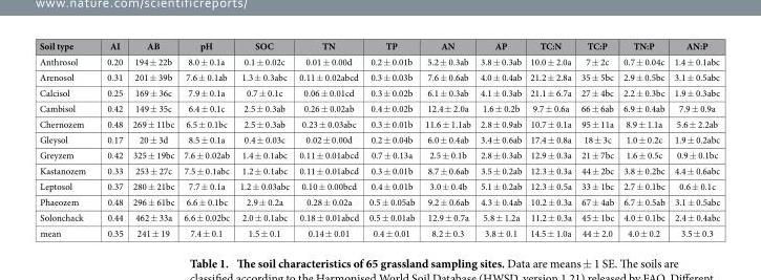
<table><thead><tr><td>Soil type</td><td>AI</td><td>AB</td><td>pH</td><td>SOC</td><td>TN</td><td>TP</td><td>AN</td><td>AP</td><td>TC:N</td><td>TC:P</td><td>TN:P</td><td>AN:P</td></tr></thead><tbody><tr><td>Anthrosol</td><td>0.20</td><td>194 ± 22b</td><td>8.0 ± 0.1a</td><td>0.1 ± 0.02c</td><td>0.01 ± 0.00d</td><td>0.2 ± 0.01b</td><td>5.2 ± 0.3ab</td><td>3.8 ± 0.3ab</td><td>10.0 ± 2.0a</td><td>7 ± 2c</td><td>0.7 ± 0.04c</td><td>1.4 ± 0.1abc</td></tr><tr><td>Arenosol</td><td>0.31</td><td>201 ± 39b</td><td>7.6 ± 0.1ab</td><td>1.3 ± 0.3abc</td><td>0.11 ± 0.02abcd</td><td>0.3 ± 0.03b</td><td>7.6 ± 0.6ab</td><td>4.0 ± 0.4ab</td><td>21.2 ± 2.8a</td><td>35 ± 5bc</td><td>2.9 ± 0.5bc</td><td>3.1 ± 0.5abc</td></tr><tr><td>Calcisol</td><td>0.25</td><td>169 ± 36c</td><td>7.9 ± 0.1a</td><td>0.7 ± 0.1c</td><td>0.06 ± 0.01cd</td><td>0.3 ± 0.02b</td><td>6.1 ± 0.3ab</td><td>4.1 ± 0.3ab</td><td>21.1 ± 6.7a</td><td>27 ± 4bc</td><td>2.2 ± 0.3bc</td><td>1.9 ± 0.3abc</td></tr><tr><td>Cambisol</td><td>0.42</td><td>149 ± 35c</td><td>6.4 ± 0.1c</td><td>2.5 ± 0.3ab</td><td>0.26 ± 0.02ab</td><td>0.4 ± 0.02b</td><td>12.4 ± 2.0a</td><td>1.6 ± 0.2b</td><td>9.7 ± 0.6a</td><td>66 ± 6ab</td><td>6.9 ± 0.4ab</td><td>7.9 ± 0.9a</td></tr><tr><td>Chernozem</td><td>0.48</td><td>269 ± 11bc</td><td>6.5 ± 0.1bc</td><td>2.5 ± 0.3ab</td><td>0.23 ± 0.03abc</td><td>0.3 ± 0.01b</td><td>11.6 ± 1.1ab</td><td>2.8 ± 0.9ab</td><td>10.7 ± 0.1a</td><td>95 ± 11a</td><td>8.9 ± 1.1a</td><td>5.6 ± 2.2ab</td></tr><tr><td>Gleysol</td><td>0.17</td><td>20 ± 3d</td><td>8.5 ± 0.1a</td><td>0.4 ± 0.03c</td><td>0.02 ± 0.00d</td><td>0.2 ± 0.04b</td><td>6.0 ± 0.4ab</td><td>3.4 ± 0.6ab</td><td>17.4 ± 0.8a</td><td>18 ± 3c</td><td>1.0 ± 0.2c</td><td>1.9 ± 0.2abc</td></tr><tr><td>Greyzem</td><td>0.42</td><td>325 ± 19bc</td><td>7.6 ± 0.02ab</td><td>1.4 ± 0.1abc</td><td>0.11 ± 0.01abcd</td><td>0.7 ± 0.13a</td><td>2.5 ± 0.1b</td><td>2.8 ± 0.3ab</td><td>12.9 ± 0.3a</td><td>21 ± 7bc</td><td>1.6 ± 0.5c</td><td>0.9 ± 0.1bc</td></tr><tr><td>Kastanozem</td><td>0.33</td><td>253 ± 27c</td><td>7.5 ± 0.1abc</td><td>1.2 ± 0.1abc</td><td>0.11 ± 0.01abcd</td><td>0.3 ± 0.01b</td><td>8.7 ± 0.6ab</td><td>3.5 ± 0.2ab</td><td>12.3 ± 0.3a</td><td>44 ± 2bc</td><td>3.8 ± 0.2bc</td><td>4.4 ± 0.6abc</td></tr><tr><td>Leptosol</td><td>0.37</td><td>280 ± 21bc</td><td>7.7 ± 0.1a</td><td>1.2 ± 0.03abc</td><td>0.10 ± 0.00bcd</td><td>0.4 ± 0.01b</td><td>3.0 ± 0.4b</td><td>5.1 ± 0.2ab</td><td>12.3 ± 0.5a</td><td>33 ± 1bc</td><td>2.7 ± 0.1bc</td><td>0.6 ± 0.1c</td></tr><tr><td>Phaeozem</td><td>0.48</td><td>296 ± 61bc</td><td>6.6 ± 0.1bc</td><td>2.9 ± 0.2a</td><td>0.28 ± 0.02a</td><td>0.5 ± 0.05ab</td><td>9.2 ± 0.6ab</td><td>4.3 ± 0.4ab</td><td>10.2 ± 0.3a</td><td>67 ± 4ab</td><td>6.7 ± 0.5ab</td><td>3.1 ± 0.5abc</td></tr><tr><td>Solonchack</td><td>0.44</td><td>462 ± 33a</td><td>6.6 ± 0.02bc</td><td>2.0 ± 0.1abc</td><td>0.18 ± 0.01abcd</td><td>0.5 ± 0.01ab</td><td>12.9 ± 0.7a</td><td>5.8 ± 1.2a</td><td>11.2 ± 0.3a</td><td>45 ± 1bc</td><td>4.0 ± 0.1bc</td><td>2.4 ± 0.4abc</td></tr><tr><td>mean</td><td>0.35</td><td>241 ± 19</td><td>7.4 ± 0.1</td><td>1.5 ± 0.1</td><td>0.14 ± 0.01</td><td>0.4 ± 0.01</td><td>8.2 ± 0.3</td><td>3.8 ± 0.1</td><td>14.5 ± 1.0a</td><td>44 ± 2.0</td><td>4.0 ± 0.2</td><td>3.5 ± 0.3</td></tr></tbody></table>